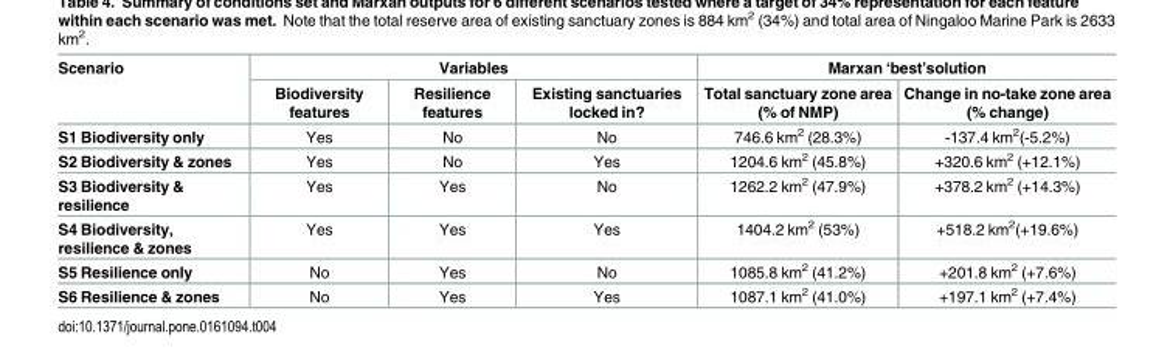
<table><thead><tr><td rowspan="2">Scenario</td><td colspan="3">Variables</td><td colspan="2">Marxan ‘best’solution</td></tr><tr><td>Biodiversity features</td><td>Resilience features</td><td>Existing sanctuaries locked in?</td><td>Total sanctuary zone area (% of NMP)</td><td>Change in no-take zone area (% change)</td></tr></thead><tbody><tr><td>S1 Biodiversity only</td><td>Yes</td><td>No</td><td>No</td><td>746.6 km<sup>2</sup> (28.3%)</td><td>-137.4 km<sup>2</sup>(-5.2%)</td></tr><tr><td>S2 Biodiversity &amp; zones</td><td>Yes</td><td>No</td><td>Yes</td><td>1204.6 km<sup>2</sup> (45.8%)</td><td>+320.6 km<sup>2</sup> (+12.1%)</td></tr><tr><td>S3 Biodiversity &amp; resilience</td><td>Yes</td><td>Yes</td><td>No</td><td>1262.2 km<sup>2</sup> (47.9%)</td><td>+378.2 km<sup>2</sup> (+14.3%)</td></tr><tr><td>S4 Biodiversity, resilience &amp; zones</td><td>Yes</td><td>Yes</td><td>Yes</td><td>1404.2 km<sup>2</sup> (53%)</td><td>+518.2 km<sup>2</sup>(+19.6%)</td></tr><tr><td>S5 Resilience only</td><td>No</td><td>Yes</td><td>No</td><td>1085.8 km<sup>2</sup> (41.2%)</td><td>+201.8 km<sup>2</sup> (+7.6%)</td></tr><tr><td>S6 Resilience &amp; zones</td><td>No</td><td>Yes</td><td>Yes</td><td>1087.1 km<sup>2</sup> (41.0%)</td><td>+197.1 km<sup>2</sup> (+7.4%)</td></tr></tbody></table>